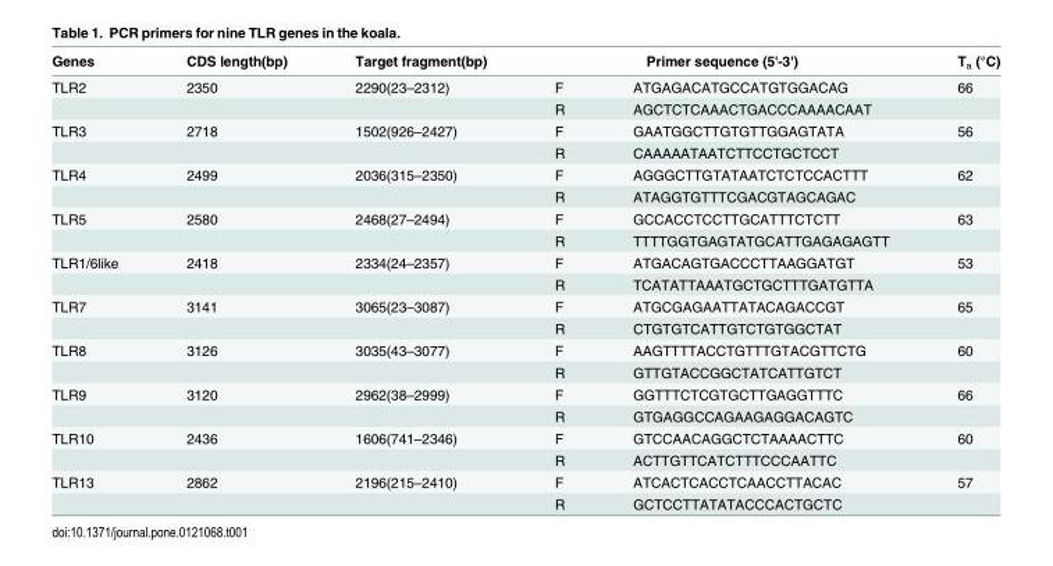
<table><thead><tr><td rowspan="2">Genes TLR2</td><td rowspan="2">CDS length(bp) 2350</td><td rowspan="2">Target fragment(bp) 2290(23–2312)</td><td colspan="2">Primer sequence (5&#x27;-3&#x27;)</td><td rowspan="2">T<sub>a</sub> (°C) 66</td></tr><tr><td>F</td><td>ATGAGACATGCCATGTGGACAG</td></tr></thead><tbody><tr><td></td><td></td><td></td><td>R</td><td>AGCTCTCAAACTGACCCAAAACAAT</td><td></td></tr><tr><td rowspan="2">TLR3</td><td>2718</td><td>1502(926–2427)</td><td>F</td><td>GAATGGCTTGTGTTGGAGTATA</td><td>56</td></tr><tr><td></td><td></td><td>R</td><td>CAAAAATAATCTTCCTGCTCCT</td><td></td></tr><tr><td rowspan="2">TLR4</td><td>2499</td><td>2036(315–2350)</td><td>F</td><td>AGGGCTTGTATAATCTCTCCACTTT</td><td>62</td></tr><tr><td></td><td></td><td>R</td><td>ATAGGTGTTTCGACGTAGCAGAC</td><td></td></tr><tr><td rowspan="2">TLR5</td><td>2580</td><td>2468(27–2494)</td><td>F</td><td>GCCACCTCCTTGCATTTCTCTT</td><td>63</td></tr><tr><td></td><td></td><td>R</td><td>TTTTGGTGAGTATGCATTGAGAGAGTT</td><td></td></tr><tr><td rowspan="2">TLR1/6like</td><td>2418</td><td>2334(24–2357)</td><td>F</td><td>ATGACAGTGACCCTTAAGGATGT</td><td>53</td></tr><tr><td></td><td></td><td>R</td><td>TCATATTAAATGCTGCTTTGATGTTA</td><td></td></tr><tr><td rowspan="2">TLR7</td><td>3141</td><td>3065(23–3087)</td><td>F</td><td>ATGCGAGAATTATACAGACCGT</td><td>65</td></tr><tr><td></td><td></td><td>R</td><td>CTGTGTCATTGTCTGTGGCTAT</td><td></td></tr><tr><td rowspan="2">TLR8</td><td>3126</td><td>3035(43–3077)</td><td>F</td><td>AAGTTTTACCTGTTTGTACGTTCTG</td><td>60</td></tr><tr><td></td><td></td><td>R</td><td>GTTGTACCGGCTATCATTGTCT</td><td></td></tr><tr><td rowspan="2">TLR9</td><td>3120</td><td>2962(38–2999)</td><td>F</td><td>GGTTTCTCGTGCTTGAGGTTTC</td><td>66</td></tr><tr><td></td><td></td><td>R</td><td>GTGAGGCCAGAAGAGGACAGTC</td><td></td></tr><tr><td rowspan="2">TLR10</td><td>2436</td><td>1606(741–2346)</td><td>F</td><td>GTCCAACAGGCTCTAAAACTTC</td><td>60</td></tr><tr><td></td><td></td><td>R</td><td>ACTTGTTCATCTTTCCCAATTC</td><td></td></tr><tr><td rowspan="2">TLR13</td><td>2862</td><td>2196(215–2410)</td><td>F</td><td>ATCACTCACCTCAACCTTACAC</td><td>57</td></tr><tr><td></td><td></td><td>R</td><td>GCTCCTTATATACCCACTGCTC</td><td></td></tr></tbody></table>